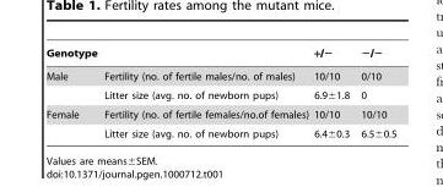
<table><thead><tr><td>Genotype</td><td></td><td>+/−</td><td>−/−</td></tr></thead><tbody><tr><td rowspan="2">Male</td><td>Fertility (no. of fertile males/no. of males)</td><td>10/10</td><td>0/10</td></tr><tr><td>Litter size (avg. no. of newborn pups)</td><td>6.9±1.8</td><td>0</td></tr><tr><td rowspan="2">Female</td><td>Fertility (no. of fertile females/no.of females)</td><td>10/10</td><td>10/10</td></tr><tr><td>Litter size (avg. no. of newborn pups)</td><td>6.4±0.3</td><td>6.5±0.5</td></tr></tbody></table>